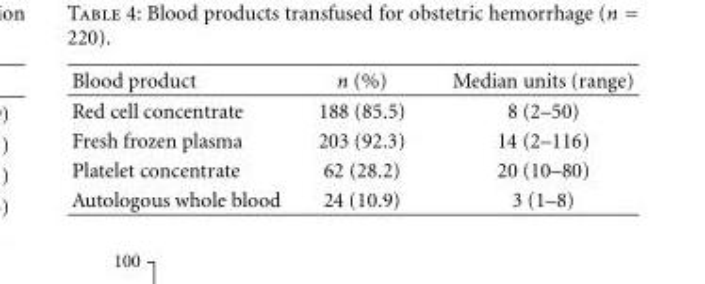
<table><thead><tr><td>Blood product</td><td>n (%)</td><td>Median units (range)</td></tr></thead><tbody><tr><td>Red cell concentrate</td><td>188 (85.5)</td><td>8 (2–50)</td></tr><tr><td>Fresh frozen plasma</td><td>203 (92.3)</td><td>14 (2–116)</td></tr><tr><td>Platelet concentrate</td><td>62 (28.2)</td><td>20 (10–80)</td></tr><tr><td>Autologous whole blood</td><td>24 (10.9)</td><td>3 (1–8)</td></tr></tbody></table>